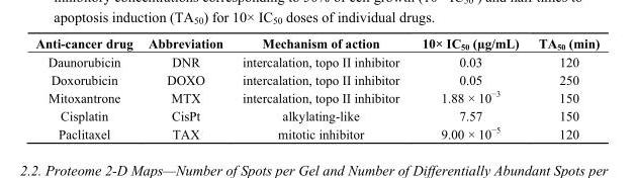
<table><thead><tr><td>Anti-cancer drug</td><td>Abbreviation</td><td>Mechanism of action</td><td>10× IC<sub>50</sub> (µg/mL)</td><td>TA<sub>50</sub> (min)</td></tr></thead><tbody><tr><td>Daunorubicin</td><td>DNR</td><td>intercalation, topo II inhibitor</td><td>0.03</td><td>120</td></tr><tr><td>Doxorubicin</td><td>DOXO</td><td>intercalation, topo II inhibitor</td><td>0.05</td><td>250</td></tr><tr><td>Mitoxantrone</td><td>MTX</td><td>intercalation, topo II inhibitor</td><td>1.88 × 10<sup>−3</sup></td><td>150</td></tr><tr><td>Cisplatin</td><td>CisPt</td><td>alkylating-like</td><td>7.57</td><td>150</td></tr><tr><td>Paclitaxel</td><td>TAX</td><td>mitotic inhibitor</td><td>9.00 × 10<sup>−5</sup></td><td>120</td></tr></tbody></table>